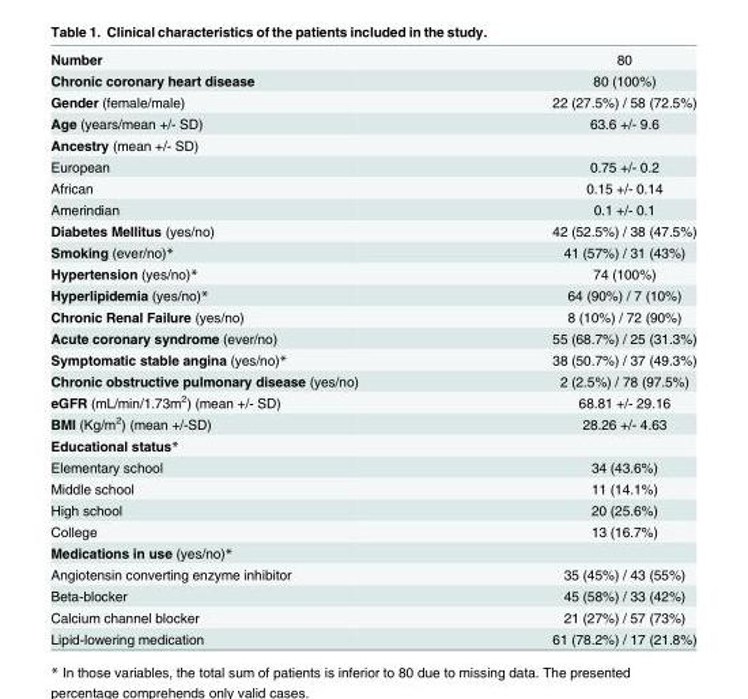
<table><tbody><tr><td>Number</td><td>80</td></tr><tr><td>Chronic coronary heart disease</td><td>80 (100%)</td></tr><tr><td>Gender (female/male)</td><td>22 (27.5%) / 58 (72.5%)</td></tr><tr><td>Age (years/mean +/- SD)</td><td>63.6 +/- 9.6</td></tr><tr><td colspan="2">Ancestry (mean +/- SD)</td></tr><tr><td>European</td><td>0.75 +/- 0.2</td></tr><tr><td>African</td><td>0.15 +/- 0.14</td></tr><tr><td>Amerindian</td><td>0.1 +/- 0.1</td></tr><tr><td>Diabetes Mellitus (yes/no)</td><td>42 (52.5%) / 38 (47.5%)</td></tr><tr><td>Smoking (ever/no)*</td><td>41 (57%) / 31 (43%)</td></tr><tr><td>Hypertension (yes/no)*</td><td>74 (100%)</td></tr><tr><td>Hyperlipidemia (yes/no)*</td><td>64 (90%) / 7 (10%)</td></tr><tr><td>Chronic Renal Failure (yes/no)</td><td>8 (10%) / 72 (90%)</td></tr><tr><td>Acute coronary syndrome (ever/no)</td><td>55 (68.7%) / 25 (31.3%)</td></tr><tr><td>Symptomatic stable angina (yes/no)*</td><td>38 (50.7%) / 37 (49.3%)</td></tr><tr><td>Chronic obstructive pulmonary disease (yes/no)</td><td>2 (2.5%) / 78 (97.5%)</td></tr><tr><td>eGFR (mL/min/1.73m<sup>2</sup>) (mean +/- SD)</td><td>68.81 +/- 29.16</td></tr><tr><td>BMI (Kg/m<sup>2</sup>) (mean +/-SD)</td><td>28.26 +/- 4.63</td></tr><tr><td colspan="2">Educational status*</td></tr><tr><td>Elementary school</td><td>34 (43.6%)</td></tr><tr><td>Middle school</td><td>11 (14.1%)</td></tr><tr><td>High school</td><td>20 (25.6%)</td></tr><tr><td>College</td><td>13 (16.7%)</td></tr><tr><td colspan="2">Medications in use (yes/no)*</td></tr><tr><td>Angiotensin converting enzyme inhibitor</td><td>35 (45%) / 43 (55%)</td></tr><tr><td>Beta-blocker</td><td>45 (58%) / 33 (42%)</td></tr><tr><td>Calcium channel blocker</td><td>21 (27%) / 57 (73%)</td></tr><tr><td>Lipid-lowering medication</td><td>61 (78.2%) / 17 (21.8%)</td></tr></tbody></table>